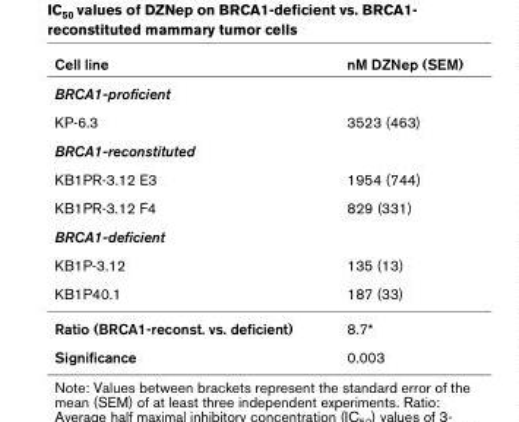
<table><thead><tr><td>Cell line</td><td>nM DZNep (SEM)</td></tr></thead><tbody><tr><td colspan="2">BRCA1-proficient</td></tr><tr><td>KP-6.3</td><td>3523 (463)</td></tr><tr><td colspan="2">BRCA1-reconstituted</td></tr><tr><td>KB1PR-3.12 E3</td><td>1954 (744)</td></tr><tr><td>KB1PR-3.12 F4</td><td>829 (331)</td></tr><tr><td colspan="2">BRCA1-deficient</td></tr><tr><td>KB1P-3.12</td><td>135 (13)</td></tr><tr><td>KB1P40.1</td><td>187 (33)</td></tr><tr><td>Ratio (BRCA1-reconst. vs. deficient)</td><td>8.7*</td></tr><tr><td>Significance</td><td>0.003</td></tr></tbody></table>